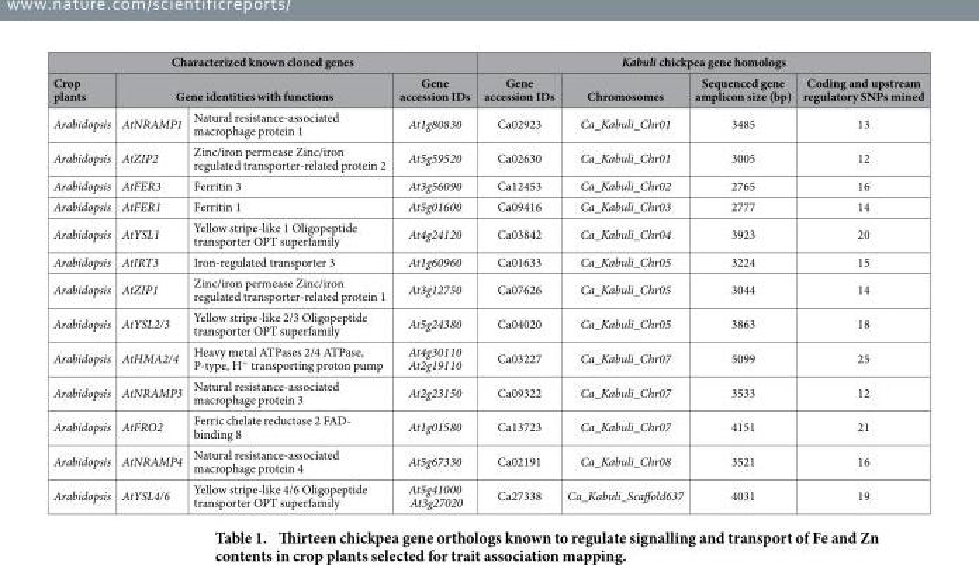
<table><thead><tr><td colspan="4">Characterized known cloned genes</td><td colspan="4">Kabuli chickpea gene homologs</td></tr><tr><td rowspan="2">Crop plants Arabidopsis</td><td colspan="2">Gene identities with functions</td><td rowspan="2">Gene accession IDs At1g80830</td><td rowspan="2">Gene accession IDs Ca02923</td><td rowspan="2">Chromosomes Ca_Kabuli_Chr01</td><td rowspan="2">Sequenced gene amplicon size (bp) 3485</td><td rowspan="2">Coding and upstream regulatory SNPs mined 13</td></tr><tr><td>AtNRAMP1</td><td>Natural resistance-associated macrophage protein 1</td></tr></thead><tbody><tr><td>Arabidopsis</td><td>AtZIP2</td><td>Zinc/iron permease Zinc/iron regulated transporter-related protein 2</td><td>At5g59520</td><td>Ca02630</td><td>Ca_Kabuli_Chr01</td><td>3005</td><td>12</td></tr><tr><td>Arabidopsis</td><td>AtFER3</td><td>Ferritin 3</td><td>At3g56090</td><td>Ca12453</td><td>Ca_Kabuli_Chr02</td><td>2765</td><td>16</td></tr><tr><td>Arabidopsis</td><td>AtFER1</td><td>Ferritin 1</td><td>At5g01600</td><td>Ca09416</td><td>Ca_Kabuli_Chr03</td><td>2777</td><td>14</td></tr><tr><td>Arabidopsis</td><td>AtYSL1</td><td>Yellow stripe-like 1 Oligopeptide transporter OPT superfamily</td><td>At4g24120</td><td>Ca03842</td><td>Ca_Kabuli_Chr04</td><td>3923</td><td>20</td></tr><tr><td>Arabidopsis</td><td>AtIRT3</td><td>Iron-regulated transporter 3</td><td>At1g60960</td><td>Ca01633</td><td>Ca_Kabuli_Chr05</td><td>3224</td><td>15</td></tr><tr><td>Arabidopsis</td><td>AtZIP1</td><td>Zinc/iron permease Zinc/iron regulated transporter-related protein 1</td><td>At3g12750</td><td>Ca07626</td><td>Ca_Kabuli_Chr05</td><td>3044</td><td>14</td></tr><tr><td>Arabidopsis</td><td>AtYSL2/3</td><td>Yellow stripe-like 2/3 Oligopeptide transporter OPT superfamily</td><td>At5g24380</td><td>Ca04020</td><td>Ca_Kabuli_Chr05</td><td>3863</td><td>18</td></tr><tr><td>Arabidopsis</td><td>AtHMA2/4</td><td>Heavy metal ATPases 2/4 ATPase, P-type, H<sup>+</sup> transporting proton pump</td><td>At4g30110 At2g19110</td><td>Ca03227</td><td>Ca_Kabuli_Chr07</td><td>5099</td><td>25</td></tr><tr><td>Arabidopsis</td><td>AtNRAMP3</td><td>Natural resistance-associated macrophage protein 3</td><td>At2g23150</td><td>Ca09322</td><td>Ca_Kabuli_Chr07</td><td>3533</td><td>12</td></tr><tr><td>Arabidopsis</td><td>AtFRO2</td><td>Ferric chelate reductase 2 FAD- binding 8</td><td>At1g01580</td><td>Ca13723</td><td>Ca_Kabuli_Chr07</td><td>4151</td><td>21</td></tr><tr><td>Arabidopsis</td><td>AtNRAMP4</td><td>Natural resistance-associated macrophage protein 4</td><td>At5g67330</td><td>Ca02191</td><td>Ca_Kabuli_Chr08</td><td>3521</td><td>16</td></tr><tr><td>Arabidopsis</td><td>AtYSL4/6</td><td>Yellow stripe-like 4/6 Oligopeptide transporter OPT superfamily</td><td>At5g41000 At3g27020</td><td>Ca27338</td><td>Ca_Kabuli_Scaffold637</td><td>4031</td><td>19</td></tr></tbody></table>